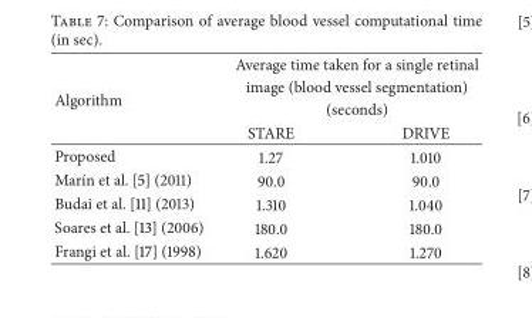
<table><thead><tr><td rowspan="2">Algorithm</td><td colspan="2">Average time taken for a single retinal image (blood vessel segmentation) (seconds)</td></tr><tr><td>STARE</td><td>DRIVE</td></tr></thead><tbody><tr><td>Proposed</td><td>1.27</td><td>1.010</td></tr><tr><td>Mar´ın et al. [5] (2011)</td><td>90.0</td><td>90.0</td></tr><tr><td>Budai et al. [11] (2013)</td><td>1.310</td><td>1.040</td></tr><tr><td>Soares et al. [13] (2006)</td><td>180.0</td><td>180.0</td></tr><tr><td>Frangi et al. [17] (1998)</td><td>1.620</td><td>1.270</td></tr></tbody></table>